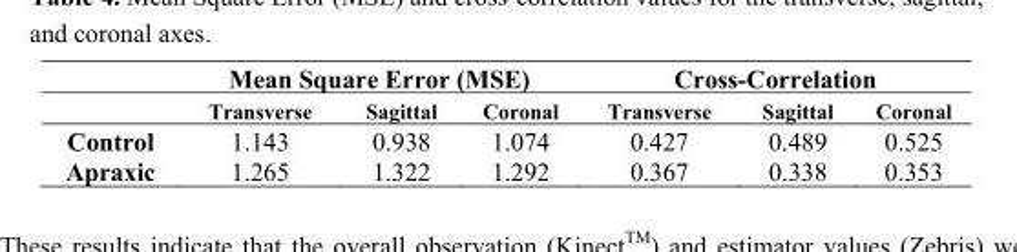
<table><thead><tr><td rowspan="2"></td><td colspan="3">Mean Square Error (MSE)</td><td colspan="3">Cross-Correlation</td></tr><tr><td>Transverse</td><td>Sagittal</td><td>Coronal</td><td>Transverse</td><td>Sagittal</td><td>Coronal</td></tr></thead><tbody><tr><td>Control</td><td>1.143</td><td>0.938</td><td>1.074</td><td>0.427</td><td>0.489</td><td>0.525</td></tr><tr><td>Apraxic</td><td>1.265</td><td>1.322</td><td>1.292</td><td>0.367</td><td>0.338</td><td>0.353</td></tr></tbody></table>